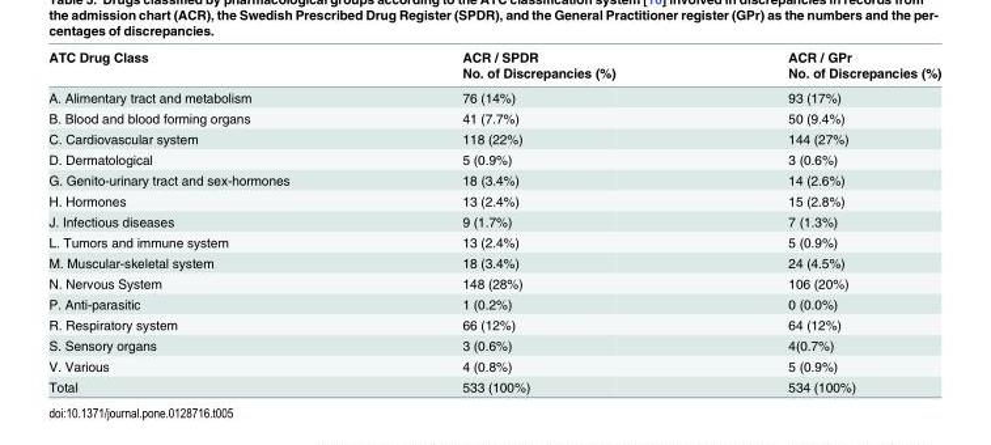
<table><thead><tr><td rowspan="2">ATC Drug Class</td><td rowspan="2">ACR / SPDR No. of Discrepancies (%)</td><td rowspan="2">ACR / GPr No. of Discrepancies (%)</td></tr><tr></tr></thead><tbody><tr><td>A. Alimentary tract and metabolism</td><td>76 (14%)</td><td>93 (17%)</td></tr><tr><td>B. Blood and blood forming organs</td><td>41 (7.7%)</td><td>50 (9.4%)</td></tr><tr><td>C. Cardiovascular system</td><td>118 (22%)</td><td>144 (27%)</td></tr><tr><td>D. Dermatological</td><td>5 (0.9%)</td><td>3 (0.6%)</td></tr><tr><td>G. Genito-urinary tract and sex-hormones</td><td>18 (3.4%)</td><td>14 (2.6%)</td></tr><tr><td>H. Hormones</td><td>13 (2.4%)</td><td>15 (2.8%)</td></tr><tr><td>J. Infectious diseases</td><td>9 (1.7%)</td><td>7 (1.3%)</td></tr><tr><td>L. Tumors and immune system</td><td>13 (2.4%)</td><td>5 (0.9%)</td></tr><tr><td>M. Muscular-skeletal system</td><td>18 (3.4%)</td><td>24 (4.5%)</td></tr><tr><td>N. Nervous System</td><td>148 (28%)</td><td>106 (20%)</td></tr><tr><td>P. Anti-parasitic</td><td>1 (0.2%)</td><td>0 (0.0%)</td></tr><tr><td>R. Respiratory system</td><td>66 (12%)</td><td>64 (12%)</td></tr><tr><td>S. Sensory organs</td><td>3 (0.6%)</td><td>4(0.7%)</td></tr><tr><td>V. Various</td><td>4 (0.8%)</td><td>5 (0.9%)</td></tr><tr><td>Total</td><td>533 (100%)</td><td>534 (100%)</td></tr></tbody></table>